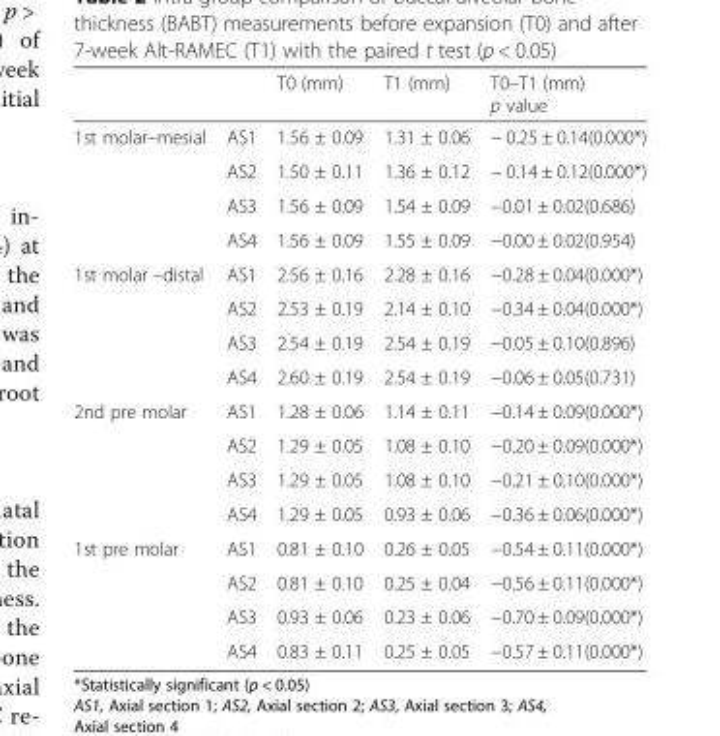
<table><thead><tr><td></td><td></td><td>T0 (mm)</td><td>T1 (mm)</td><td>T0–T1 (mm) p value</td></tr></thead><tbody><tr><td rowspan="4">1st molar–mesial</td><td>AS1</td><td>1.56 ± 0.09</td><td>1.31 ± 0.06</td><td>− 0.25 ± 0.14(0.000*)</td></tr><tr><td>AS2</td><td>1.50 ± 0.11</td><td>1.36 ± 0.12</td><td>− 0.14 ± 0.12(0.000*)</td></tr><tr><td>AS3</td><td>1.56 ± 0.09</td><td>1.54 ± 0.09</td><td>−0.01 ± 0.02(0.686)</td></tr><tr><td>AS4</td><td>1.56 ± 0.09</td><td>1.55 ± 0.09</td><td>−0.00 ± 0.02(0.954)</td></tr><tr><td rowspan="4">1st molar –distal</td><td>AS1</td><td>2.56 ± 0.16</td><td>2.28 ± 0.16</td><td>−0.28 ± 0.04(0.000*)</td></tr><tr><td>AS2</td><td>2.53 ± 0.19</td><td>2.14 ± 0.10</td><td>−0.34 ± 0.04(0.000*)</td></tr><tr><td>AS3</td><td>2.54 ± 0.19</td><td>2.54 ± 0.19</td><td>−0.05 ± 0.10(0.896)</td></tr><tr><td>AS4</td><td>2.60 ± 0.19</td><td>2.54 ± 0.19</td><td>−0.06 ± 0.05(0.731)</td></tr><tr><td rowspan="4">2nd pre molar</td><td>AS1</td><td>1.28 ± 0.06</td><td>1.14 ± 0.11</td><td>−0.14 ± 0.09(0.000*)</td></tr><tr><td>AS2</td><td>1.29 ± 0.05</td><td>1.08 ± 0.10</td><td>−0.20 ± 0.09(0.000*)</td></tr><tr><td>AS3</td><td>1.29 ± 0.05</td><td>1.08 ± 0.10</td><td>−0.21 ± 0.10(0.000*)</td></tr><tr><td>AS4</td><td>1.29 ± 0.05</td><td>0.93 ± 0.06</td><td>−0.36 ± 0.06(0.000*)</td></tr><tr><td rowspan="4">1st pre molar</td><td>AS1</td><td>0.81 ± 0.10</td><td>0.26 ± 0.05</td><td>−0.54 ± 0.11(0.000*)</td></tr><tr><td>AS2</td><td>0.81 ± 0.10</td><td>0.25 ± 0.04</td><td>−0.56 ± 0.11(0.000*)</td></tr><tr><td>AS3</td><td>0.93 ± 0.06</td><td>0.23 ± 0.06</td><td>−0.70 ± 0.09(0.000*)</td></tr><tr><td>AS4</td><td>0.83 ± 0.11</td><td>0.25 ± 0.05</td><td>−0.57 ± 0.11(0.000*)</td></tr></tbody></table>